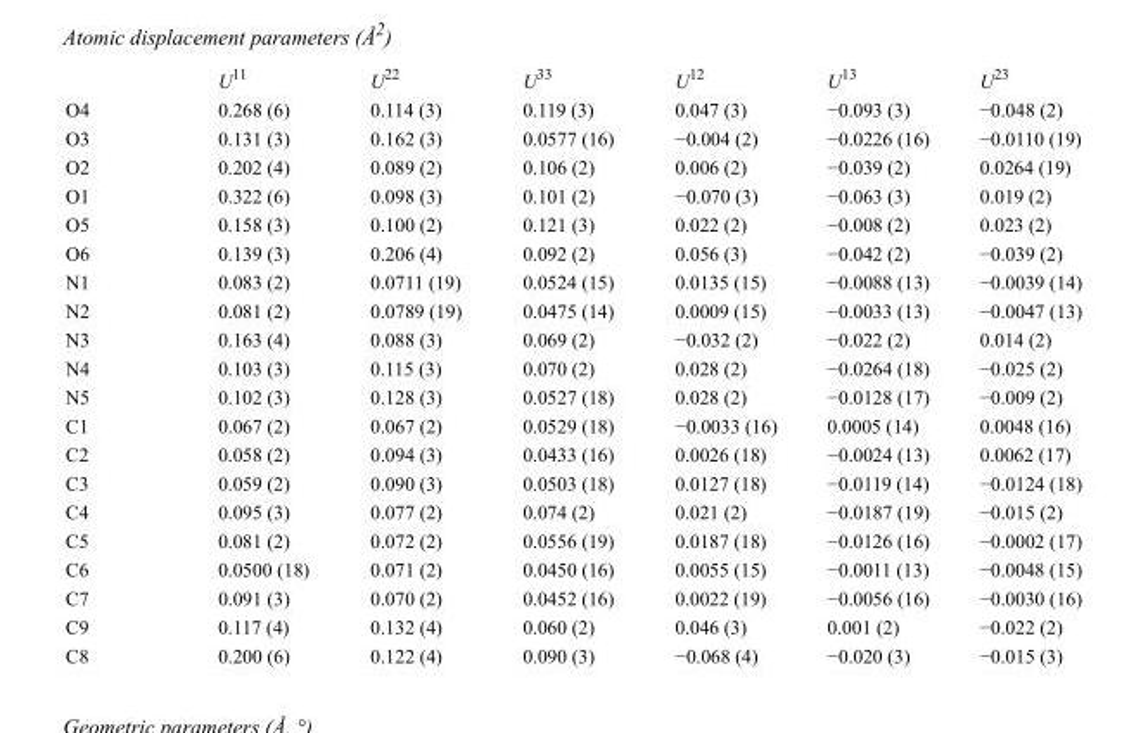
<table><thead><tr><td></td><td>U<sup>11</sup></td><td>U<sup>22</sup></td><td>U<sup>33</sup></td><td>U<sup>12</sup></td><td>U<sup>13</sup></td><td>U<sup>23</sup></td></tr></thead><tbody><tr><td>O4</td><td>0.268 (6)</td><td>0.114 (3)</td><td>0.119 (3)</td><td>0.047 (3)</td><td>−0.093 (3)</td><td>−0.048 (2)</td></tr><tr><td>O3</td><td>0.131 (3)</td><td>0.162 (3)</td><td>0.0577 (16)</td><td>−0.004 (2)</td><td>−0.0226 (16)</td><td>−0.0110 (19)</td></tr><tr><td>O2</td><td>0.202 (4)</td><td>0.089 (2)</td><td>0.106 (2)</td><td>0.006 (2)</td><td>−0.039 (2)</td><td>0.0264 (19)</td></tr><tr><td>O1</td><td>0.322 (6)</td><td>0.098 (3)</td><td>0.101 (2)</td><td>−0.070 (3)</td><td>−0.063 (3)</td><td>0.019 (2)</td></tr><tr><td>O5</td><td>0.158 (3)</td><td>0.100 (2)</td><td>0.121 (3)</td><td>0.022 (2)</td><td>−0.008 (2)</td><td>0.023 (2)</td></tr><tr><td>O6</td><td>0.139 (3)</td><td>0.206 (4)</td><td>0.092 (2)</td><td>0.056 (3)</td><td>−0.042 (2)</td><td>−0.039 (2)</td></tr><tr><td>N1</td><td>0.083 (2)</td><td>0.0711 (19)</td><td>0.0524 (15)</td><td>0.0135 (15)</td><td>−0.0088 (13)</td><td>−0.0039 (14)</td></tr><tr><td>N2</td><td>0.081 (2)</td><td>0.0789 (19)</td><td>0.0475 (14)</td><td>0.0009 (15)</td><td>−0.0033 (13)</td><td>−0.0047 (13)</td></tr><tr><td>N3</td><td>0.163 (4)</td><td>0.088 (3)</td><td>0.069 (2)</td><td>−0.032 (2)</td><td>−0.022 (2)</td><td>0.014 (2)</td></tr><tr><td>N4</td><td>0.103 (3)</td><td>0.115 (3)</td><td>0.070 (2)</td><td>0.028 (2)</td><td>−0.0264 (18)</td><td>−0.025 (2)</td></tr><tr><td>N5</td><td>0.102 (3)</td><td>0.128 (3)</td><td>0.0527 (18)</td><td>0.028 (2)</td><td>−0.0128 (17)</td><td>−0.009 (2)</td></tr><tr><td>C1</td><td>0.067 (2)</td><td>0.067 (2)</td><td>0.0529 (18)</td><td>−0.0033 (16)</td><td>0.0005 (14)</td><td>0.0048 (16)</td></tr><tr><td>C2</td><td>0.058 (2)</td><td>0.094 (3)</td><td>0.0433 (16)</td><td>0.0026 (18)</td><td>−0.0024 (13)</td><td>0.0062 (17)</td></tr><tr><td>C3</td><td>0.059 (2)</td><td>0.090 (3)</td><td>0.0503 (18)</td><td>0.0127 (18)</td><td>−0.0119 (14)</td><td>−0.0124 (18)</td></tr><tr><td>C4</td><td>0.095 (3)</td><td>0.077 (2)</td><td>0.074 (2)</td><td>0.021 (2)</td><td>−0.0187 (19)</td><td>−0.015 (2)</td></tr><tr><td>C5</td><td>0.081 (2)</td><td>0.072 (2)</td><td>0.0556 (19)</td><td>0.0187 (18)</td><td>−0.0126 (16)</td><td>−0.0002 (17)</td></tr><tr><td>C6</td><td>0.0500 (18)</td><td>0.071 (2)</td><td>0.0450 (16)</td><td>0.0055 (15)</td><td>−0.0011 (13)</td><td>−0.0048 (15)</td></tr><tr><td>C7</td><td>0.091 (3)</td><td>0.070 (2)</td><td>0.0452 (16)</td><td>0.0022 (19)</td><td>−0.0056 (16)</td><td>−0.0030 (16)</td></tr><tr><td>C9</td><td>0.117 (4)</td><td>0.132 (4)</td><td>0.060 (2)</td><td>0.046 (3)</td><td>0.001 (2)</td><td>−0.022 (2)</td></tr><tr><td>C8</td><td>0.200 (6)</td><td>0.122 (4)</td><td>0.090 (3)</td><td>−0.068 (4)</td><td>−0.020 (3)</td><td>−0.015 (3)</td></tr></tbody></table>